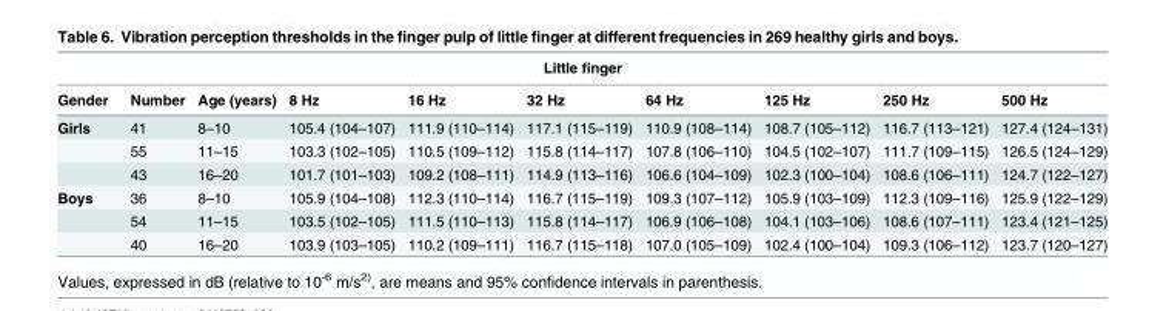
<table><thead><tr><td colspan="10">Little finger</td></tr><tr><td>Gender</td><td>Number</td><td>Age (years)</td><td>8 Hz</td><td>16 Hz</td><td>32 Hz</td><td>64 Hz</td><td>125 Hz</td><td>250 Hz</td><td>500 Hz</td></tr></thead><tbody><tr><td rowspan="3">Girls</td><td>41</td><td>8–10</td><td>105.4 (104–107)</td><td>111.9 (110–114)</td><td>117.1 (115–119)</td><td>110.9 (108–114)</td><td>108.7 (105–112)</td><td>116.7 (113–121)</td><td>127.4 (124–131)</td></tr><tr><td>55</td><td>11–15</td><td>103.3 (102–105)</td><td>110.5 (109–112)</td><td>115.8 (114–117)</td><td>107.8 (106–110)</td><td>104.5 (102–107)</td><td>111.7 (109–115)</td><td>126.5 (124–129)</td></tr><tr><td>43</td><td>16–20</td><td>101.7 (101–103)</td><td>109.2 (108–111)</td><td>114.9 (113–116)</td><td>106.6 (104–109)</td><td>102.3 (100–104)</td><td>108.6 (106–111)</td><td>124.7 (122–127)</td></tr><tr><td rowspan="3">Boys</td><td>36</td><td>8–10</td><td>105.9 (104–108)</td><td>112.3 (110–114)</td><td>116.7 (115–119)</td><td>109.3 (107–112)</td><td>105.9 (103–109)</td><td>112.3 (109–116)</td><td>125.9 (122–129)</td></tr><tr><td>54</td><td>11–15</td><td>103.5 (102–105)</td><td>111.5 (110–113)</td><td>115.8 (114–117)</td><td>106.9 (106–108)</td><td>104.1 (103–106)</td><td>108.6 (107–111)</td><td>123.4 (121–125)</td></tr><tr><td>40</td><td>16–20</td><td>103.9 (103–105)</td><td>110.2 (109–111)</td><td>116.7 (115–118)</td><td>107.0 (105–109)</td><td>102.4 (100–104)</td><td>109.3 (106–112)</td><td>123.7 (120–127)</td></tr></tbody></table>